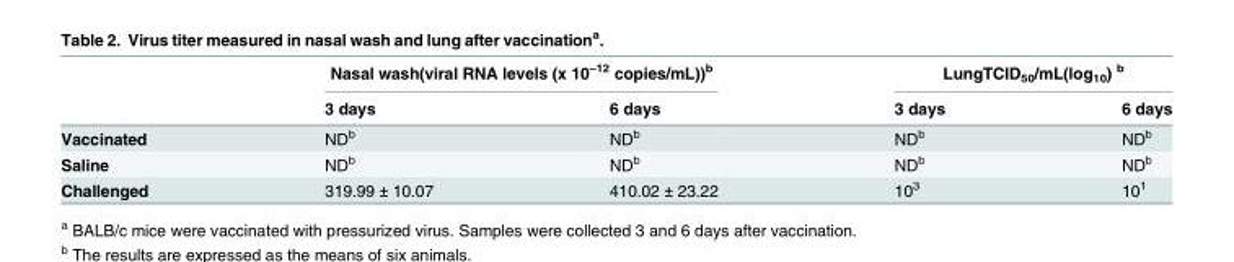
<table><thead><tr><td rowspan="2"></td><td colspan="2">Nasal wash(viral RNA levels (x 10<sup>–12</sup> copies/mL))<sup>b</sup></td><td colspan="2">LungTCID<sub>50</sub>/mL(log<sub>10</sub>) <sup>b</sup></td></tr><tr><td>3 days</td><td>6 days</td><td>3 days</td><td>6 days</td></tr></thead><tbody><tr><td>Vaccinated</td><td>ND<sup>b</sup></td><td>ND<sup>b</sup></td><td>ND<sup>b</sup></td><td>ND<sup>b</sup></td></tr><tr><td>Saline</td><td>ND<sup>b</sup></td><td>ND<sup>b</sup></td><td>ND<sup>b</sup></td><td>ND<sup>b</sup></td></tr><tr><td>Challenged</td><td>319.99 ± 10.07</td><td>410.02 ± 23.22</td><td>10<sup>3</sup></td><td>10<sup>1</sup></td></tr></tbody></table>